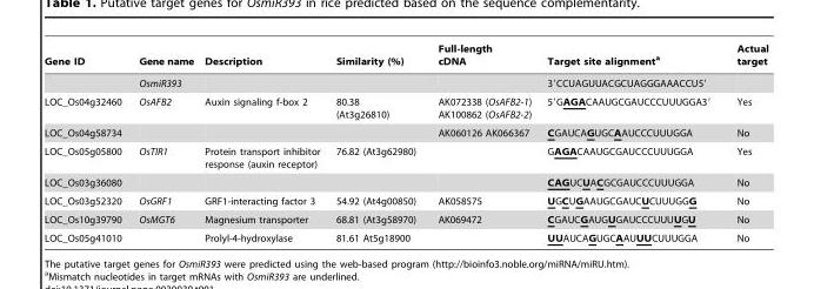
<table><thead><tr><td>Gene ID</td><td>Gene name</td><td>Description</td><td>Similarity (%)</td><td>Full-length cDNA</td><td>Target site alignment<sup>a</sup></td><td>Actual target</td></tr></thead><tbody><tr><td></td><td>OsmiR393</td><td></td><td></td><td></td><td>3′CCUAGUUACGCUAGGGAAACCU5′</td><td></td></tr><tr><td>LOC_Os04g32460</td><td>OsAFB2</td><td>Auxin signaling f-box 2</td><td>80.38 (At3g26810)</td><td>AK072338 (OsAFB2-1) AK100862 (OsAFB2-2)</td><td>5′GAGACAAUGCGAUCCCUUUGGA3′</td><td>Yes</td></tr><tr><td>LOC_Os04g58734</td><td></td><td></td><td></td><td>AK060126 AK066367</td><td>CGAUCAGUGCAAUCCCUUUGGA</td><td>No</td></tr><tr><td>LOC_Os05g05800</td><td>OsTIR1</td><td>Protein transport inhibitor response (auxin receptor)</td><td>76.82 (At3g62980)</td><td></td><td>GAGACAAUGCGAUCCCUUUGGA</td><td>Yes</td></tr><tr><td>LOC_Os03g36080</td><td></td><td></td><td></td><td></td><td>CAGUCUACGCGAUCCCUUUGGA</td><td>No</td></tr><tr><td>LOC_Os03g52320</td><td>OsGRF1</td><td>GRF1-interacting factor 3</td><td>54.92 (At4g00850)</td><td>AK058575</td><td>UGCUGAAUGCGAUCUCUUUGGG</td><td>No</td></tr><tr><td>LOC_Os10g39790</td><td>OsMGT6</td><td>Magnesium transporter</td><td>68.81 (At3g58970)</td><td>AK069472</td><td>CGAUCGAUGUGAUCCCUUUUGU</td><td>No</td></tr><tr><td>LOC_Os05g41010</td><td></td><td>Prolyl-4-hydroxylase</td><td>81.61 At5g18900</td><td></td><td>UUAUCAGUGCAAUUUCUUUGGA</td><td>No</td></tr></tbody></table>